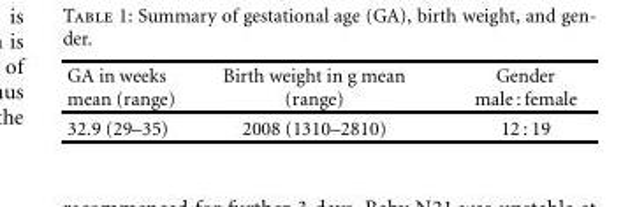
<table><thead><tr><td>GA in weeks mean (range)</td><td>Birth weight in g mean (range)</td><td>Gender male : female</td></tr></thead><tbody><tr><td>32.9 (29–35)</td><td>2008 (1310–2810)</td><td>12 : 19</td></tr></tbody></table>